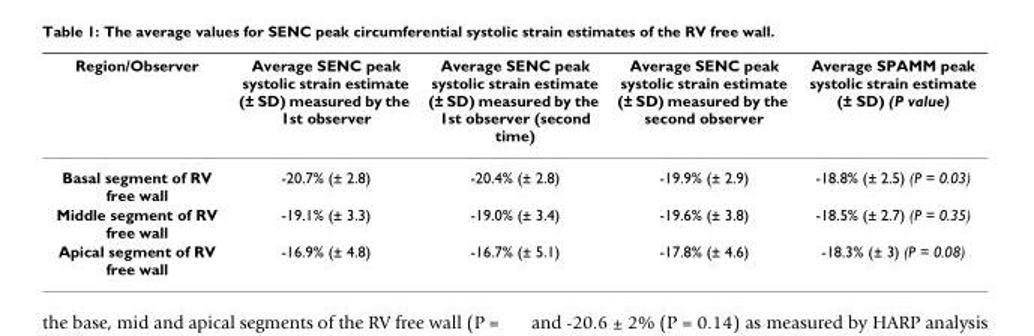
<table><thead><tr><td>Region/Observer</td><td>Average SENC peak systolic strain estimate (± SD) measured by the 1st observer</td><td>Average SENC peak systolic strain estimate (± SD) measured by the 1st observer (second time)</td><td>Average SENC peak systolic strain estimate (± SD) measured by the second observer</td><td>Average SPAMM peak systolic strain estimate (± SD) (P value)</td></tr></thead><tbody><tr><td>Basal segment of RV free wall</td><td>-20.7% (± 2.8)</td><td>-20.4% (± 2.8)</td><td>-19.9% (± 2.9)</td><td>-18.8% (± 2.5) (P = 0.03)</td></tr><tr><td>Middle segment of RV free wall</td><td>-19.1% (± 3.3)</td><td>-19.0% (± 3.4)</td><td>-19.6% (± 3.8)</td><td>-18.5% (± 2.7) (P = 0.35)</td></tr><tr><td>Apical segment of RV free wall</td><td>-16.9% (± 4.8)</td><td>-16.7% (± 5.1)</td><td>-17.8% (± 4.6)</td><td>-18.3% (± 3) (P = 0.08)</td></tr></tbody></table>